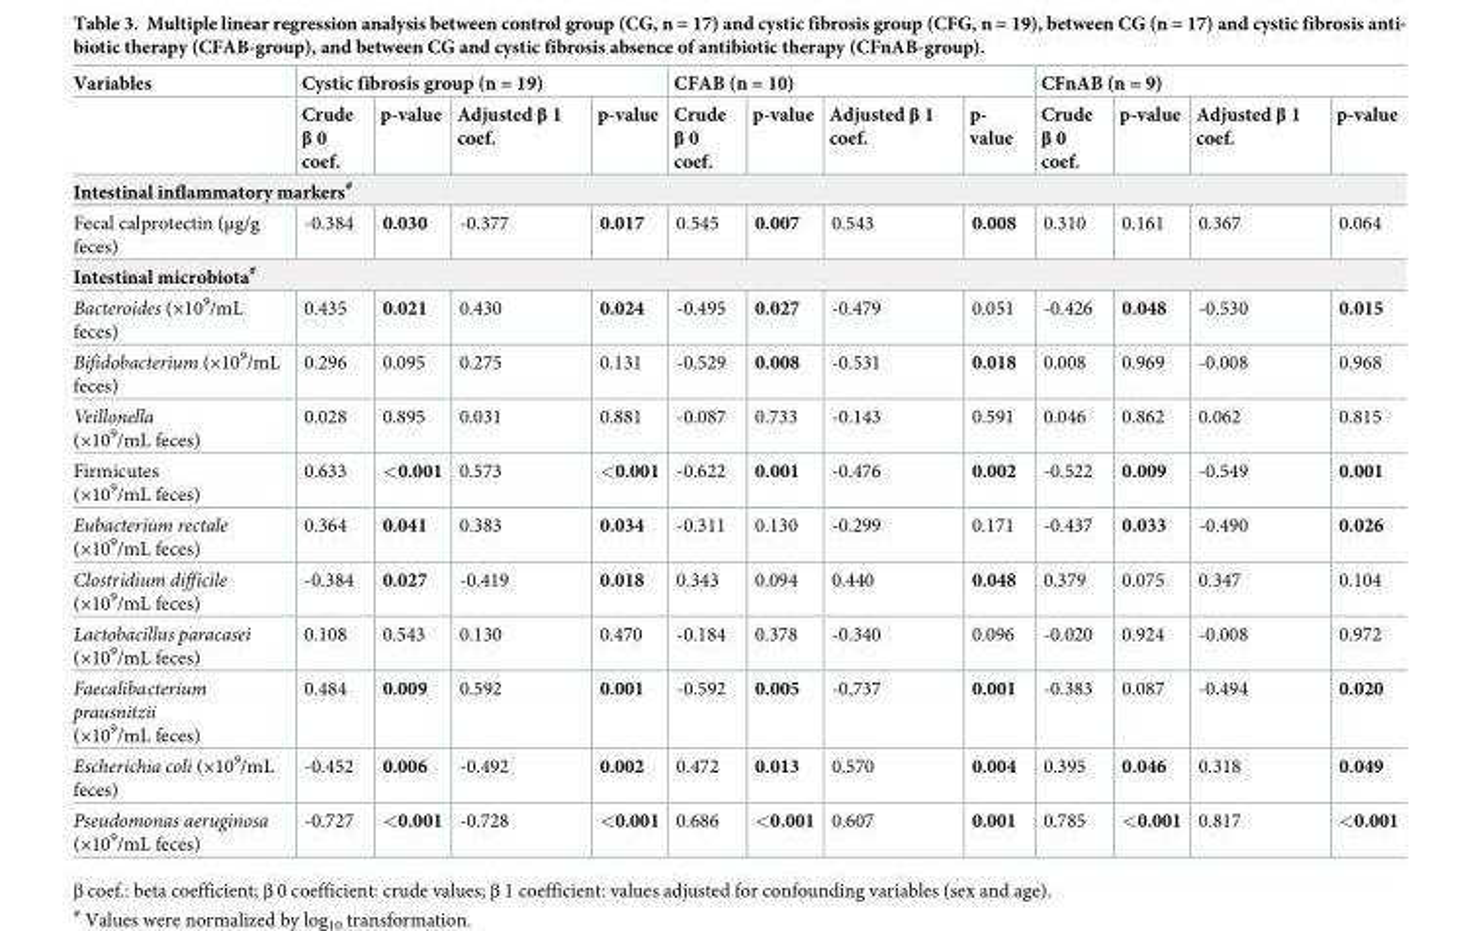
<table><thead><tr><td rowspan="2">Variables</td><td colspan="4">Cystic fibrosis group (n = 19)</td><td colspan="4">CFAB (n = 10)</td><td colspan="4">CFnAB (n = 9)</td></tr><tr><td>Crude β 0 coef.</td><td>p-value</td><td>Adjusted β 1 coef.</td><td>p-value</td><td>Crude β 0 coef.</td><td>p-value</td><td>Adjusted β 1 coef.</td><td>p- value</td><td>Crude β 0 coef.</td><td>p-value</td><td>Adjusted β 1 coef.</td><td>p-value</td></tr></thead><tbody><tr><td colspan="13">Intestinal inflammatory markers<sup>#</sup></td></tr><tr><td>Fecal calprotectin (µg/g feces)</td><td>-0.384</td><td>0.030</td><td>-0.377</td><td>0.017</td><td>0.545</td><td>0.007</td><td>0.543</td><td>0.008</td><td>0.310</td><td>0.161</td><td>0.367</td><td>0.064</td></tr><tr><td colspan="13">Intestinal microbiota<sup>#</sup></td></tr><tr><td>Bacteroides (×10<sup>9</sup>/mL feces)</td><td>0.435</td><td>0.021</td><td>0.430</td><td>0.024</td><td>-0.495</td><td>0.027</td><td>-0.479</td><td>0.051</td><td>-0.426</td><td>0.048</td><td>-0.530</td><td>0.015</td></tr><tr><td>Bifidobacterium (×10<sup>9</sup>/mL feces)</td><td>0.296</td><td>0.095</td><td>0.275</td><td>0.131</td><td>-0.529</td><td>0.008</td><td>-0.531</td><td>0.018</td><td>0.008</td><td>0.969</td><td>-0.008</td><td>0.968</td></tr><tr><td>Veillonella (×10<sup>9</sup>/mL feces)</td><td>0.028</td><td>0.895</td><td>0.031</td><td>0.881</td><td>-0.087</td><td>0.733</td><td>-0.143</td><td>0.591</td><td>0.046</td><td>0.862</td><td>0.062</td><td>0.815</td></tr><tr><td>Firmicutes (×10<sup>9</sup>/mL feces)</td><td>0.633</td><td>&lt;0.001</td><td>0.573</td><td>&lt;0.001</td><td>-0.622</td><td>0.001</td><td>-0.476</td><td>0.002</td><td>-0.522</td><td>0.009</td><td>-0.549</td><td>0.001</td></tr><tr><td>Eubacterium rectale (×10<sup>9</sup>/mL feces)</td><td>0.364</td><td>0.041</td><td>0.383</td><td>0.034</td><td>-0.311</td><td>0.130</td><td>-0.299</td><td>0.171</td><td>-0.437</td><td>0.033</td><td>-0.490</td><td>0.026</td></tr><tr><td>Clostridium difficile (×10<sup>9</sup>/mL feces)</td><td>-0.384</td><td>0.027</td><td>-0.419</td><td>0.018</td><td>0.343</td><td>0.094</td><td>0.440</td><td>0.048</td><td>0.379</td><td>0.075</td><td>0.347</td><td>0.104</td></tr><tr><td>Lactobacillus paracasei (×10<sup>9</sup>/mL feces)</td><td>0.108</td><td>0.543</td><td>0.130</td><td>0.470</td><td>-0.184</td><td>0.378</td><td>-0.340</td><td>0.096</td><td>-0.020</td><td>0.924</td><td>-0.008</td><td>0.972</td></tr><tr><td>Faecalibacterium prausnitzii (×10<sup>9</sup>/mL feces)</td><td>0.484</td><td>0.009</td><td>0.592</td><td>0.001</td><td>-0.592</td><td>0.005</td><td>-0,737</td><td>0.001</td><td>-0.383</td><td>0.087</td><td>-0.494</td><td>0.020</td></tr><tr><td>Escherichia coli (×10<sup>9</sup>/mL feces)</td><td>-0.452</td><td>0.006</td><td>-0.492</td><td>0.002</td><td>0.472</td><td>0.013</td><td>0.570</td><td>0.004</td><td>0.395</td><td>0.046</td><td>0.318</td><td>0.049</td></tr><tr><td>Pseudomonas aeruginosa (×10<sup>9</sup>/mL feces)</td><td>-0.727</td><td>&lt;0.001</td><td>-0.728</td><td>&lt;0.001</td><td>0.686</td><td>&lt;0.001</td><td>0.607</td><td>0.001</td><td>0.785</td><td>&lt;0.001</td><td>0.817</td><td>&lt;0.001</td></tr></tbody></table>